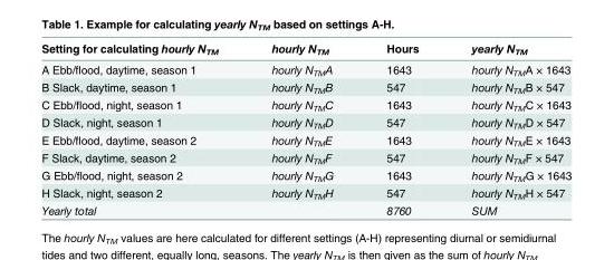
<table><thead><tr><td>Setting for calculating hourly N<sub>TM</sub></td><td>hourly N<sub>TM</sub></td><td>Hours</td><td>yearly N<sub>TM</sub></td></tr></thead><tbody><tr><td>A Ebb/flood, daytime, season 1</td><td>hourly N<sub>TM</sub>A</td><td>1643</td><td>hourly N<sub>TM</sub>A × 1643</td></tr><tr><td>B Slack, daytime, season 1</td><td>hourly N<sub>TM</sub>B</td><td>547</td><td>hourly N<sub>TM</sub>B × 547</td></tr><tr><td>C Ebb/flood, night, season 1</td><td>hourly N<sub>TM</sub>C</td><td>1643</td><td>hourly N<sub>TM</sub>C × 1643</td></tr><tr><td>D Slack, night, season 1</td><td>hourly N<sub>TM</sub>D</td><td>547</td><td>hourly N<sub>TM</sub>D × 547</td></tr><tr><td>E Ebb/flood, daytime, season 2</td><td>hourly N<sub>TM</sub>E</td><td>1643</td><td>hourly N<sub>TM</sub>E × 1643</td></tr><tr><td>F Slack, daytime, season 2</td><td>hourly N<sub>TM</sub>F</td><td>547</td><td>hourly N<sub>TM</sub>F × 547</td></tr><tr><td>G Ebb/flood, night, season 2</td><td>hourly N<sub>TM</sub>G</td><td>1643</td><td>hourly N<sub>TM</sub>G × 1643</td></tr><tr><td>H Slack, night, season 2</td><td>hourly N<sub>TM</sub>H</td><td>547</td><td>hourly N<sub>TM</sub>H × 547</td></tr><tr><td>Yearly total</td><td></td><td>8760</td><td>SUM</td></tr></tbody></table>